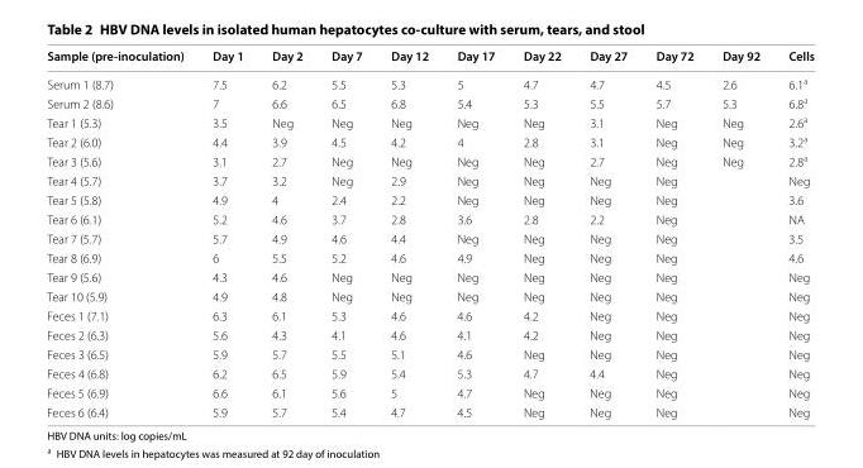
<table><thead><tr><td>Sample (pre‑inoculation)</td><td>Day 1</td><td>Day 2</td><td>Day 7</td><td>Day 12</td><td>Day 17</td><td>Day 22</td><td>Day 27</td><td>Day 72</td><td>Day 92</td><td>Cells</td></tr></thead><tbody><tr><td>Serum 1 (8.7)</td><td>7.5</td><td>6.2</td><td>5.5</td><td>5.3</td><td>5</td><td>4.7</td><td>4.7</td><td>4.5</td><td>2.6</td><td>6.1<sup>a</sup></td></tr><tr><td>Serum 2 (8.6)</td><td>7</td><td>6.6</td><td>6.5</td><td>6.8</td><td>5.4</td><td>5.3</td><td>5.5</td><td>5.7</td><td>5.3</td><td>6.8<sup>a</sup></td></tr><tr><td>Tear 1 (5.3)</td><td>3.5</td><td>Neg</td><td>Neg</td><td>Neg</td><td>Neg</td><td>Neg</td><td>3.1</td><td>Neg</td><td>Neg</td><td>2.6<sup>a</sup></td></tr><tr><td>Tear 2 (6.0)</td><td>4.4</td><td>3.9</td><td>4.5</td><td>4.2</td><td>4</td><td>2.8</td><td>3.1</td><td>Neg</td><td>Neg</td><td>3.2<sup>a</sup></td></tr><tr><td>Tear 3 (5.6)</td><td>3.1</td><td>2.7</td><td>Neg</td><td>Neg</td><td>Neg</td><td>Neg</td><td>2.7</td><td>Neg</td><td>Neg</td><td>2.8<sup>a</sup></td></tr><tr><td>Tear 4 (5.7)</td><td>3.7</td><td>3.2</td><td>Neg</td><td>2.9</td><td>Neg</td><td>Neg</td><td>Neg</td><td>Neg</td><td></td><td>Neg</td></tr><tr><td>Tear 5 (5.8)</td><td>4.9</td><td>4</td><td>2.4</td><td>2.2</td><td>Neg</td><td>Neg</td><td>Neg</td><td>Neg</td><td></td><td>3.6</td></tr><tr><td>Tear 6 (6.1)</td><td>5.2</td><td>4.6</td><td>3.7</td><td>2.8</td><td>3.6</td><td>2.8</td><td>2.2</td><td>Neg</td><td></td><td>NA</td></tr><tr><td>Tear 7 (5.7)</td><td>5.7</td><td>4.9</td><td>4.6</td><td>4.4</td><td>Neg</td><td>Neg</td><td>Neg</td><td>Neg</td><td></td><td>3.5</td></tr><tr><td>Tear 8 (6.9)</td><td>6</td><td>5.5</td><td>5.2</td><td>4.6</td><td>4.9</td><td>Neg</td><td>Neg</td><td>Neg</td><td></td><td>4.6</td></tr><tr><td>Tear 9 (5.6)</td><td>4.3</td><td>4.6</td><td>Neg</td><td>Neg</td><td>Neg</td><td>Neg</td><td>Neg</td><td>Neg</td><td></td><td>Neg</td></tr><tr><td>Tear 10 (5.9)</td><td>4.9</td><td>4.8</td><td>Neg</td><td>Neg</td><td>Neg</td><td>Neg</td><td>Neg</td><td>Neg</td><td></td><td>Neg</td></tr><tr><td>Feces 1 (7.1)</td><td>6.3</td><td>6.1</td><td>5.3</td><td>4.6</td><td>4.6</td><td>4.2</td><td>Neg</td><td>Neg</td><td></td><td>Neg</td></tr><tr><td>Feces 2 (6.3)</td><td>5.6</td><td>4.3</td><td>4.1</td><td>4.6</td><td>4.1</td><td>4.2</td><td>Neg</td><td>Neg</td><td></td><td>Neg</td></tr><tr><td>Feces 3 (6.5)</td><td>5.9</td><td>5.7</td><td>5.5</td><td>5.1</td><td>4.6</td><td>Neg</td><td>Neg</td><td>Neg</td><td></td><td>Neg</td></tr><tr><td>Feces 4 (6.8)</td><td>6.2</td><td>6.5</td><td>5.9</td><td>5.4</td><td>5.3</td><td>4.7</td><td>4.4</td><td>Neg</td><td></td><td>Neg</td></tr><tr><td>Feces 5 (6.9)</td><td>6.6</td><td>6.1</td><td>5.6</td><td>5</td><td>4.7</td><td>Neg</td><td>Neg</td><td>Neg</td><td></td><td>Neg</td></tr><tr><td>Feces 6 (6.4)</td><td>5.9</td><td>5.7</td><td>5.4</td><td>4.7</td><td>4.5</td><td>Neg</td><td>Neg</td><td>Neg</td><td></td><td>Neg</td></tr></tbody></table>